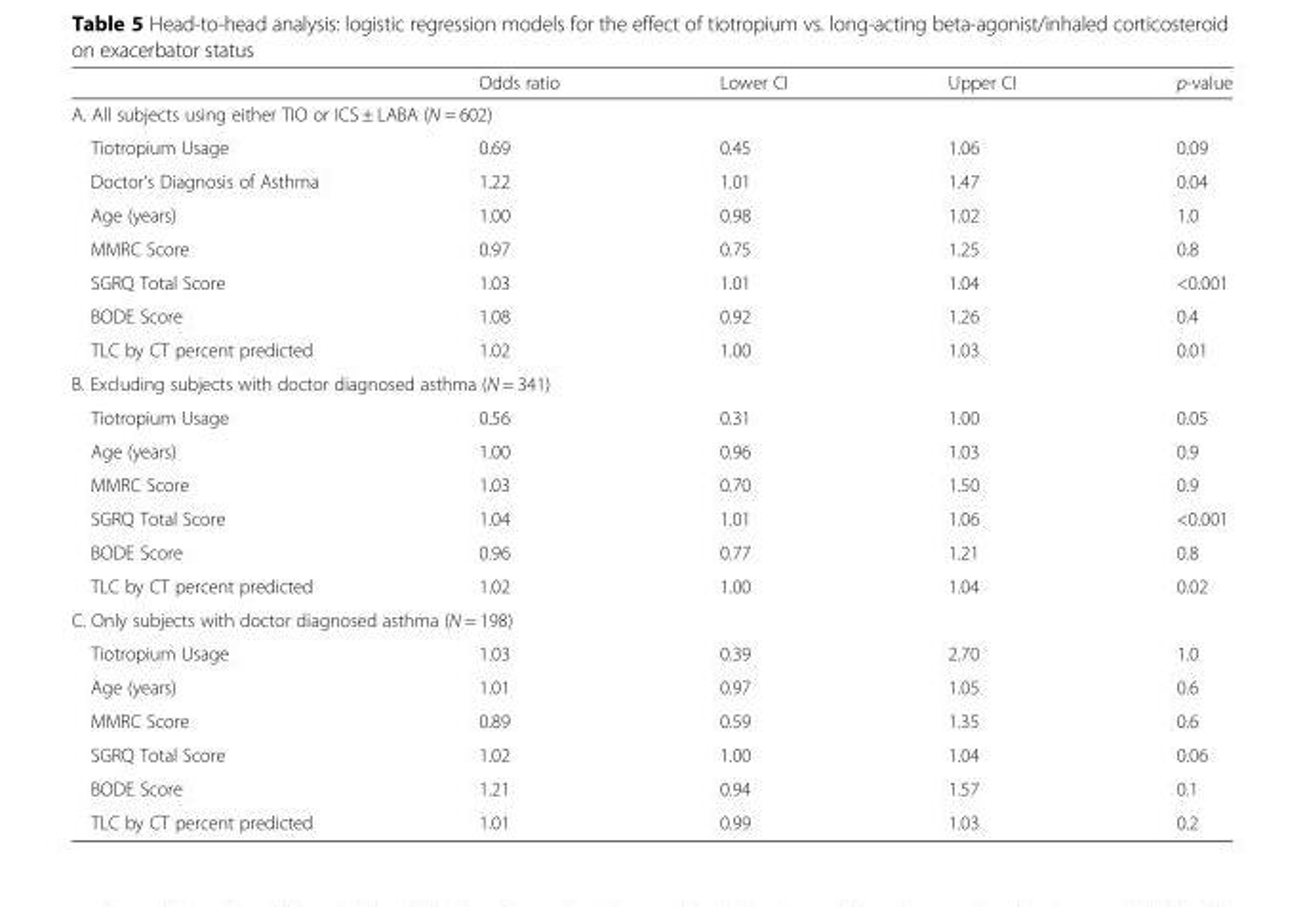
<table><thead><tr><td></td><td>Odds ratio</td><td>Lower CI</td><td>Upper CI</td><td>p-value</td></tr></thead><tbody><tr><td colspan="5">A. All subjects using either TIO or ICS ± LABA (N = 602)</td></tr><tr><td>Tiotropium Usage</td><td>0.69</td><td>0.45</td><td>1.06</td><td>0.09</td></tr><tr><td>Doctor&#x27;s Diagnosis of Asthma</td><td>1.22</td><td>1.01</td><td>1.47</td><td>0.04</td></tr><tr><td>Age (years)</td><td>1.00</td><td>0.98</td><td>1.02</td><td>1.0</td></tr><tr><td>MMRC Score</td><td>0.97</td><td>0.75</td><td>1.25</td><td>0.8</td></tr><tr><td>SGRQ Total Score</td><td>1.03</td><td>1.01</td><td>1.04</td><td>&lt;0.001</td></tr><tr><td>BODE Score</td><td>1.08</td><td>0.92</td><td>1.26</td><td>0.4</td></tr><tr><td>TLC by CT percent predicted</td><td>1.02</td><td>1.00</td><td>1.03</td><td>0.01</td></tr><tr><td colspan="5">B. Excluding subjects with doctor diagnosed asthma (N = 341)</td></tr><tr><td>Tiotropium Usage</td><td>0.56</td><td>0.31</td><td>1.00</td><td>0.05</td></tr><tr><td>Age (years)</td><td>1.00</td><td>0.96</td><td>1.03</td><td>0.9</td></tr><tr><td>MMRC Score</td><td>1.03</td><td>0.70</td><td>1.50</td><td>0.9</td></tr><tr><td>SGRQ Total Score</td><td>1.04</td><td>1.01</td><td>1.06</td><td>&lt;0.001</td></tr><tr><td>BODE Score</td><td>0.96</td><td>0.77</td><td>1.21</td><td>0.8</td></tr><tr><td>TLC by CT percent predicted</td><td>1.02</td><td>1.00</td><td>1.04</td><td>0.02</td></tr><tr><td colspan="5">C. Only subjects with doctor diagnosed asthma (N = 198)</td></tr><tr><td>Tiotropium Usage</td><td>1.03</td><td>0.39</td><td>2.70</td><td>1.0</td></tr><tr><td>Age (years)</td><td>1.01</td><td>0.97</td><td>1.05</td><td>0.6</td></tr><tr><td>MMRC Score</td><td>0.89</td><td>0.59</td><td>1.35</td><td>0.6</td></tr><tr><td>SGRQ Total Score</td><td>1.02</td><td>1.00</td><td>1.04</td><td>0.06</td></tr><tr><td>BODE Score</td><td>1.21</td><td>0.94</td><td>1.57</td><td>0.1</td></tr><tr><td>TLC by CT percent predicted</td><td>1.01</td><td>0.99</td><td>1.03</td><td>0.2</td></tr></tbody></table>